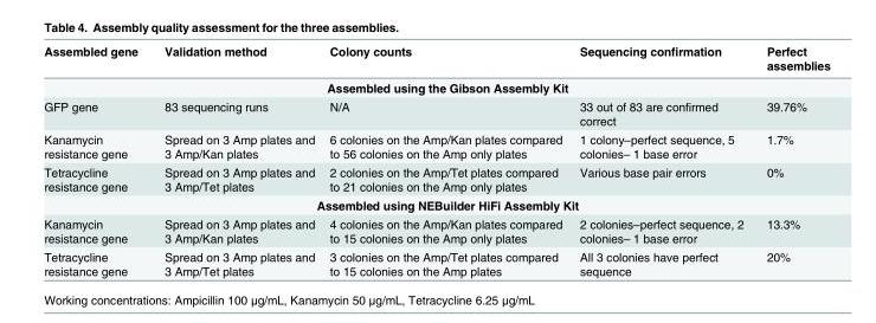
<table><thead><tr><td>Assembled gene</td><td>Validation method</td><td>Colony counts</td><td>Sequencing confirmation</td><td>Perfect assemblies</td></tr></thead><tbody><tr><td colspan="5">Assembled using the Gibson Assembly Kit</td></tr><tr><td>GFP gene</td><td>83 sequencing runs</td><td>N/A</td><td>33 out of 83 are confirmed correct</td><td>39.76%</td></tr><tr><td>Kanamycin resistance gene</td><td>Spread on 3 Amp plates and 3 Amp/Kan plates</td><td>6 colonies on the Amp/Kan plates compared to 56 colonies on the Amp only plates</td><td>1 colony–perfect sequence, 5 colonies– 1 base error</td><td>1.7%</td></tr><tr><td>Tetracycline resistance gene</td><td>Spread on 3 Amp plates and 3 Amp/Tet plates</td><td>2 colonies on the Amp/Tet plates compared to 21 colonies on the Amp only plates</td><td>Various base pair errors</td><td>0%</td></tr><tr><td colspan="5">Assembled using NEBuilder HiFi Assembly Kit</td></tr><tr><td>Kanamycin resistance gene</td><td>Spread on 3 Amp plates and 3 Amp/Kan plates</td><td>4 colonies on the Amp/Kan plates compared to 15 colonies on the Amp only plates</td><td>2 colonies–perfect sequence, 2 colonies– 1 base error</td><td>13.3%</td></tr><tr><td>Tetracycline resistance gene</td><td>Spread on 3 Amp plates and 3 Amp/Tet plates</td><td>3 colonies on the Amp/Tet plates compared to 15 colonies on the Amp plates</td><td>All 3 colonies have perfect sequence</td><td>20%</td></tr></tbody></table>